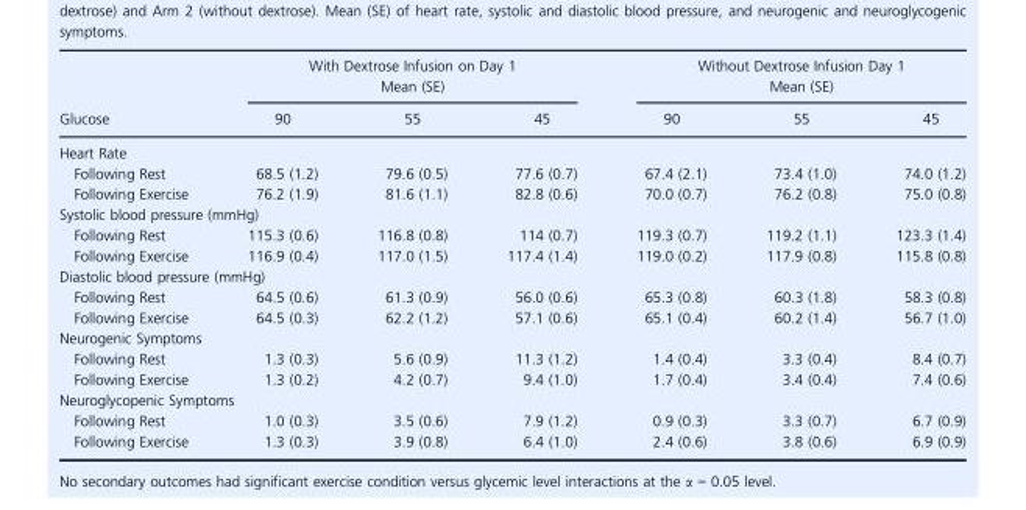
<table><thead><tr><td rowspan="2">Glucose</td><td colspan="3">With Dextrose Infusion on Day 1 Mean (SE)</td><td colspan="3">Without Dextrose Infusion Day 1 Mean (SE)</td></tr><tr><td>90</td><td>55</td><td>45</td><td>90</td><td>55</td><td>45</td></tr></thead><tbody><tr><td colspan="7">Heart Rate</td></tr><tr><td>Following Rest</td><td>68.5 (1.2)</td><td>79.6 (0.5)</td><td>77.6 (0.7)</td><td>67.4 (2.1)</td><td>73.4 (1.0)</td><td>74.0 (1.2)</td></tr><tr><td>Following Exercise</td><td>76.2 (1.9)</td><td>81.6 (1.1)</td><td>82.8 (0.6)</td><td>70.0 (0.7)</td><td>76.2 (0.8)</td><td>75.0 (0.8)</td></tr><tr><td colspan="7">Systolic blood pressure (mmHg)</td></tr><tr><td>Following Rest</td><td>115.3 (0.6)</td><td>116.8 (0.8)</td><td>114 (0.7)</td><td>119.3 (0.7)</td><td>119.2 (1.1)</td><td>123.3 (1.4)</td></tr><tr><td>Following Exercise</td><td>116.9 (0.4)</td><td>117.0 (1.5)</td><td>117.4 (1.4)</td><td>119.0 (0.2)</td><td>117.9 (0.8)</td><td>115.8 (0.8)</td></tr><tr><td colspan="7">Diastolic blood pressure (mmHg)</td></tr><tr><td>Following Rest</td><td>64.5 (0.6)</td><td>61.3 (0.9)</td><td>56.0 (0.6)</td><td>65.3 (0.8)</td><td>60.3 (1.8)</td><td>58.3 (0.8)</td></tr><tr><td>Following Exercise</td><td>64.5 (0.3)</td><td>62.2 (1.2)</td><td>57.1 (0.6)</td><td>65.1 (0.4)</td><td>60.2 (1.4)</td><td>56.7 (1.0)</td></tr><tr><td colspan="7">Neurogenic Symptoms</td></tr><tr><td>Following Rest</td><td>1.3 (0.3)</td><td>5.6 (0.9)</td><td>11.3 (1.2)</td><td>1.4 (0.4)</td><td>3.3 (0.4)</td><td>8.4 (0.7)</td></tr><tr><td>Following Exercise</td><td>1.3 (0.2)</td><td>4.2 (0.7)</td><td>9.4 (1.0)</td><td>1.7 (0.4)</td><td>3.4 (0.4)</td><td>7.4 (0.6)</td></tr><tr><td colspan="7">Neuroglycopenic Symptoms</td></tr><tr><td>Following Rest</td><td>1.0 (0.3)</td><td>3.5 (0.6)</td><td>7.9 (1.2)</td><td>0.9 (0.3)</td><td>3.3 (0.7)</td><td>6.7 (0.9)</td></tr><tr><td>Following Exercise</td><td>1.3 (0.3)</td><td>3.9 (0.8)</td><td>6.4 (1.0)</td><td>2.4 (0.6)</td><td>3.8 (0.6)</td><td>6.9 (0.9)</td></tr></tbody></table>